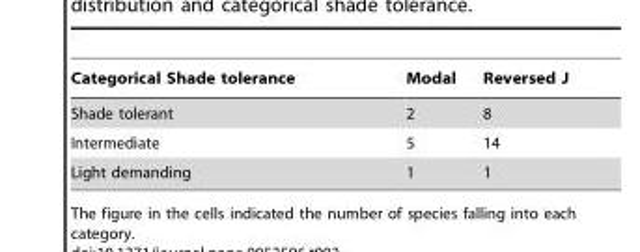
<table><thead><tr><td>Categorical Shade tolerance</td><td>Modal</td><td>Reversed J</td></tr></thead><tbody><tr><td>Shade tolerant</td><td>2</td><td>8</td></tr><tr><td>Intermediate</td><td>5</td><td>14</td></tr><tr><td>Light demanding</td><td>1</td><td>1</td></tr></tbody></table>